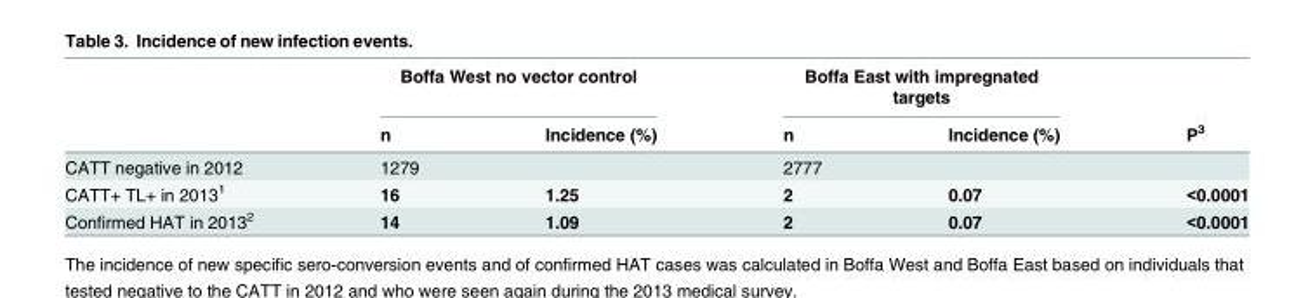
<table><thead><tr><td rowspan="2"></td><td colspan="2">Boffa West no vector control</td><td colspan="2">Boffa East with impregnated targets</td><td rowspan="2">P<sup>3</sup></td></tr><tr><td>n</td><td>Incidence (%)</td><td>n</td><td>Incidence (%)</td></tr></thead><tbody><tr><td>CATT negative in 2012</td><td>1279</td><td></td><td>2777</td><td></td><td></td></tr><tr><td>CATT+ TL+ in 2013<sup>1</sup></td><td>16</td><td>1.25</td><td>2</td><td>0.07</td><td>&lt;0.0001</td></tr><tr><td>Confirmed HAT in 2013<sup>2</sup></td><td>14</td><td>1.09</td><td>2</td><td>0.07</td><td>&lt;0.0001</td></tr></tbody></table>